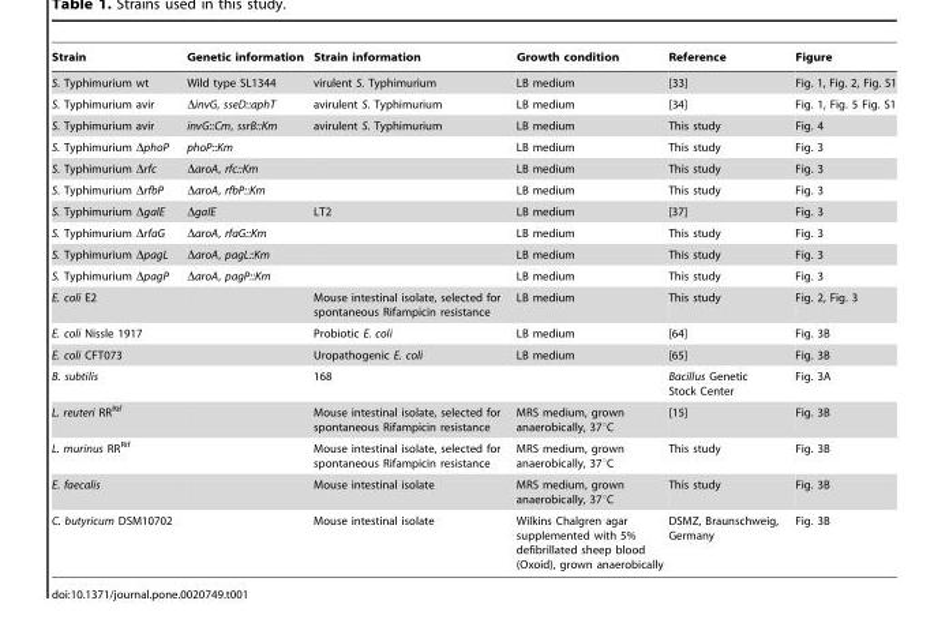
<table><thead><tr><td>Strain</td><td>Genetic information</td><td>Strain information</td><td>Growth condition</td><td>Reference</td><td>Figure</td></tr></thead><tbody><tr><td>S. Typhimurium wt</td><td>Wild type SL1344</td><td>virulent S. Typhimurium</td><td>LB medium</td><td>[33]</td><td>Fig. 1, Fig. 2, Fig. S1</td></tr><tr><td>S. Typhimurium avir</td><td>ΔinvG, sseD::aphT</td><td>avirulent S. Typhimurium</td><td>LB medium</td><td>[34]</td><td>Fig. 1, Fig. 5 Fig. S1</td></tr><tr><td>S. Typhimurium avir</td><td>invG::Cm, ssrB::Km</td><td>avirulent S. Typhimurium</td><td>LB medium</td><td>This study</td><td>Fig. 4</td></tr><tr><td>S. Typhimurium ΔphoP</td><td>phoP::Km</td><td></td><td>LB medium</td><td>This study</td><td>Fig. 3</td></tr><tr><td>S. Typhimurium Δrfc</td><td>ΔaroA, rfc::Km</td><td></td><td>LB medium</td><td>This study</td><td>Fig. 3</td></tr><tr><td>S. Typhimurium ΔrfbP</td><td>ΔaroA, rfbP::Km</td><td></td><td>LB medium</td><td>This study</td><td>Fig. 3</td></tr><tr><td>S. Typhimurium ΔgalE</td><td>ΔgalE</td><td>LT2</td><td>LB medium</td><td>[37]</td><td>Fig. 3</td></tr><tr><td>S. Typhimurium ΔrfaG</td><td>ΔaroA, rfaG::Km</td><td></td><td>LB medium</td><td>This study</td><td>Fig. 3</td></tr><tr><td>S. Typhimurium ΔpagL</td><td>ΔaroA, pagL::Km</td><td></td><td>LB medium</td><td>This study</td><td>Fig. 3</td></tr><tr><td>S. Typhimurium ΔpagP</td><td>ΔaroA, pagP::Km</td><td></td><td>LB medium</td><td>This study</td><td>Fig. 3</td></tr><tr><td>E. coli E2</td><td></td><td>Mouse intestinal isolate, selected for spontaneous Rifampicin resistance</td><td>LB medium</td><td>This study</td><td>Fig. 2, Fig. 3</td></tr><tr><td>E. coli Nissle 1917</td><td></td><td>Probiotic E. coli</td><td>LB medium</td><td>[64]</td><td>Fig. 3B</td></tr><tr><td>E. coli CFT073</td><td></td><td>Uropathogenic E. coli</td><td>LB medium</td><td>[65]</td><td>Fig. 3B</td></tr><tr><td>B. subtilis</td><td></td><td>168</td><td></td><td>Bacillus Genetic Stock Center</td><td>Fig. 3A</td></tr><tr><td>L. reuteri RR<sup>Rif</sup></td><td></td><td>Mouse intestinal isolate, selected for spontaneous Rifampicin resistance</td><td>MRS medium, grown anaerobically, 37°C</td><td>[15]</td><td>Fig. 3B</td></tr><tr><td>L. murinus RR<sup>Rif</sup></td><td></td><td>Mouse intestinal isolate, selected for spontaneous Rifampicin resistance</td><td>MRS medium, grown anaerobically, 37°C</td><td>This study</td><td>Fig. 3B</td></tr><tr><td>E. faecalis</td><td></td><td>Mouse intestinal isolate</td><td>MRS medium, grown anaerobically, 37°C</td><td>This study</td><td>Fig. 3B</td></tr><tr><td>C. butyricum DSM10702</td><td></td><td>Mouse intestinal isolate</td><td>Wilkins Chalgren agar supplemented with 5% defibrillated sheep blood (Oxoid), grown anaerobically</td><td>DSMZ, Braunschweig, Germany</td><td>Fig. 3B</td></tr></tbody></table>